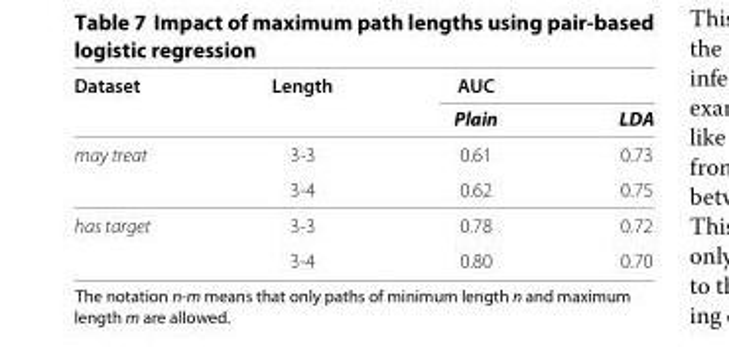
<table><thead><tr><td rowspan="2">Dataset</td><td rowspan="2">Length</td><td rowspan="2">AUC Plain</td><td rowspan="2">LDA</td></tr><tr></tr></thead><tbody><tr><td rowspan="2">may treat</td><td>3-3</td><td>0.61</td><td>0.73</td></tr><tr><td>3-4</td><td>0.62</td><td>0.75</td></tr><tr><td rowspan="2">has target</td><td>3-3</td><td>0.78</td><td>0.72</td></tr><tr><td>3-4</td><td>0.80</td><td>0.70</td></tr></tbody></table>